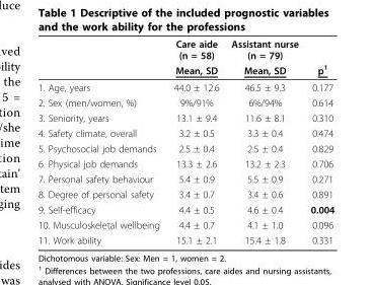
<table><thead><tr><td rowspan="2"></td><td rowspan="2">Care aide (n = 58) Mean, SD</td><td rowspan="2">Assistant nurse (n = 79) Mean, SD</td><td rowspan="2">p<sup>1</sup></td></tr><tr></tr></thead><tbody><tr><td>1. Age, years</td><td>44.0 ± 12.6</td><td>46.5 ± 9.3</td><td>0.177</td></tr><tr><td>2. Sex (men/women, %)</td><td>9%/91%</td><td>6%/94%</td><td>0.614</td></tr><tr><td>3. Seniority, years</td><td>13.1 ± 9.4</td><td>11.6 ± 8.1</td><td>0.310</td></tr><tr><td>4. Safety climate, overall</td><td>3.2 ± 0.5</td><td>3.3 ± 0.4</td><td>0.474</td></tr><tr><td>5. Psychosocial job demands</td><td>2.5 ± 0.4</td><td>2.5 ± 0.4</td><td>0.829</td></tr><tr><td>6. Physical job demands</td><td>13.3 ± 2.6</td><td>13.2 ± 2.3</td><td>0.706</td></tr><tr><td>7. Personal safety behaviour</td><td>5.4 ± 0.9</td><td>5.5 ± 0.9</td><td>0.271</td></tr><tr><td>8. Degree of personal safety</td><td>3.4 ± 0.7</td><td>3.4 ± 0.6</td><td>0.891</td></tr><tr><td>9. Self-efficacy</td><td>4.4 ± 0.5</td><td>4.6 ± 0.4</td><td>0.004</td></tr><tr><td>10. Musculoskeletal wellbeing</td><td>4.4 ± 0.7</td><td>4.1 ± 1.0</td><td>0.096</td></tr><tr><td>11. Work ability</td><td>15.1 ± 2.1</td><td>15.4 ± 1.8</td><td>0.331</td></tr></tbody></table>